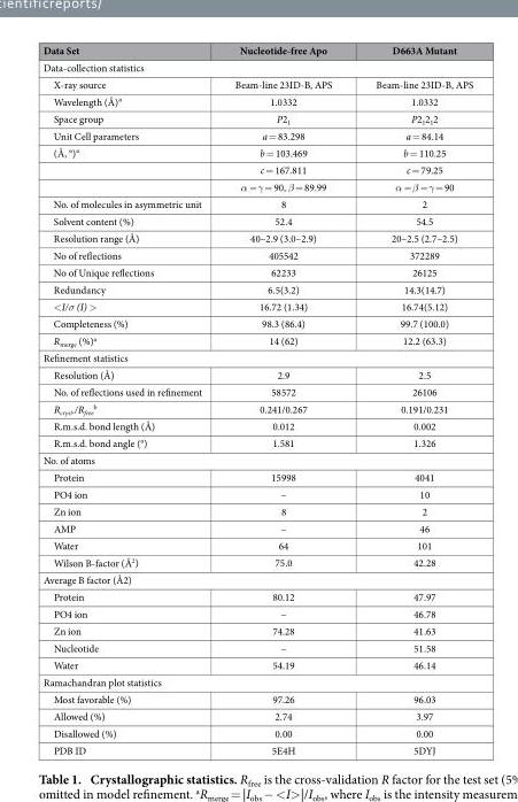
<table><thead><tr><td>Data Set</td><td>Nucleotide-free Apo</td><td>D663A Mutant</td></tr></thead><tbody><tr><td colspan="3">Data-collection statistics</td></tr><tr><td>X-ray source</td><td>Beam-line 23ID-B, APS</td><td>Beam-line 23ID-B, APS</td></tr><tr><td>Wavelength (Å)°</td><td>1.0332</td><td>1.0332</td></tr><tr><td>Space group</td><td>P2<sub>1</sub></td><td>P2<sub>1</sub>2<sub>1</sub>2</td></tr><tr><td>Unit Cell parameters</td><td>a = 83.298</td><td>a = 84.14</td></tr><tr><td rowspan="3">(Å, °)°</td><td>b = 103.469</td><td>b = 110.25</td></tr><tr><td>c = 167.811</td><td>c = 79.25</td></tr><tr><td>α = γ = 90, β = 89.99</td><td>α = β = γ = 90</td></tr><tr><td>No. of molecules in asymmetric unit</td><td>8</td><td>2</td></tr><tr><td>Solvent content (%)</td><td>52.4</td><td>54.5</td></tr><tr><td>Resolution range (Å)</td><td>40–2.9 (3.0–2.9)</td><td>20–2.5 (2.7–2.5)</td></tr><tr><td>No of reflections</td><td>405542</td><td>372289</td></tr><tr><td>No of Unique reflections</td><td>62233</td><td>26125</td></tr><tr><td>Redundancy</td><td>6.5(3.2)</td><td>14.3(14.7)</td></tr><tr><td>&lt; I/σ (I) &gt;</td><td>16.72 (1.34)</td><td>16.74(5.12)</td></tr><tr><td>Completeness (%)</td><td>98.3 (86.4)</td><td>99.7 (100.0)</td></tr><tr><td>R<sub>merge</sub> (%)<sup>a</sup></td><td>14 (62)</td><td>12.2 (63.3)</td></tr><tr><td colspan="3">Refinement statistics</td></tr><tr><td>Resolution (Å)</td><td>2.9</td><td>2.5</td></tr><tr><td>No. of reflections used in refinement</td><td>58572</td><td>26106</td></tr><tr><td>R<sub>cryst</sub>./R<sub>free</sub> <sup>b</sup></td><td>0.241/0.267</td><td>0.191/0.231</td></tr><tr><td>R.m.s.d. bond length (Å)</td><td>0.012</td><td>0.002</td></tr><tr><td>R.m.s.d. bond angle (°)</td><td>1.581</td><td>1.326</td></tr><tr><td colspan="3">No. of atoms</td></tr><tr><td>Protein</td><td>15998</td><td>4041</td></tr><tr><td>PO4 ion</td><td>–</td><td>10</td></tr><tr><td>Zn ion</td><td>8</td><td>2</td></tr><tr><td>AMP</td><td>–</td><td>46</td></tr><tr><td>Water</td><td>64</td><td>101</td></tr><tr><td>Wilson B-factor (Å<sup>2</sup>)</td><td>75.0</td><td>42.28</td></tr><tr><td colspan="3">Average B factor (Å2)</td></tr><tr><td>Protein</td><td>80.12</td><td>47.97</td></tr><tr><td>PO4 ion</td><td>–</td><td>46.78</td></tr><tr><td>Zn ion</td><td>74.28</td><td>41.63</td></tr><tr><td>Nucleotide</td><td>–</td><td>51.58</td></tr><tr><td>Water</td><td>54.19</td><td>46.14</td></tr><tr><td colspan="3">Ramachandran plot statistics</td></tr><tr><td>Most favorable (%)</td><td>97.26</td><td>96.03</td></tr><tr><td>Allowed (%)</td><td>2.74</td><td>3.97</td></tr><tr><td>Disallowed (%)</td><td>0.00</td><td>0.00</td></tr><tr><td>PDB ID</td><td>5E4H</td><td>5DYJ</td></tr></tbody></table>